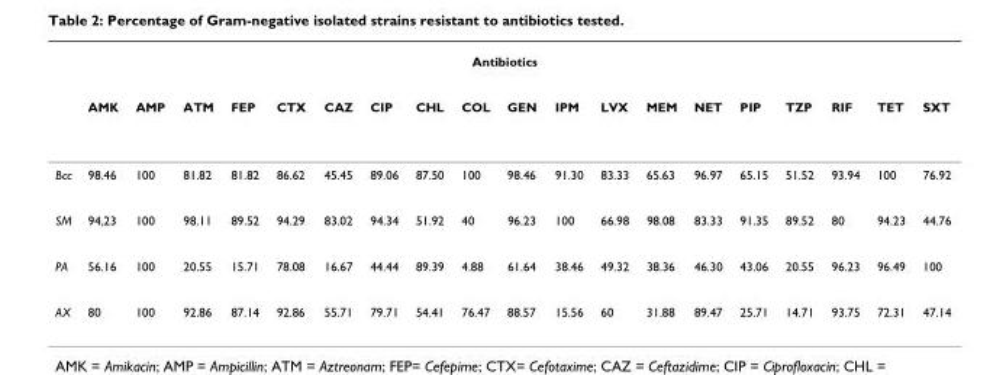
<table><thead><tr><td colspan="20">Antibiotics</td></tr><tr><td></td><td>AMK</td><td>AMP</td><td>ATM</td><td>FEP</td><td>CTX</td><td>CAZ</td><td>CIP</td><td>CHL</td><td>COL</td><td>GEN</td><td>IPM</td><td>LVX</td><td>MEM</td><td>NET</td><td>PIP</td><td>TZP</td><td>RIF</td><td>TET</td><td>SXT</td></tr></thead><tbody><tr><td>Bcc</td><td>98.46</td><td>100</td><td>81.82</td><td>81.82</td><td>86.62</td><td>45.45</td><td>89.06</td><td>87.50</td><td>100</td><td>98.46</td><td>91.30</td><td>83.33</td><td>65.63</td><td>96.97</td><td>65.15</td><td>51.52</td><td>93.94</td><td>100</td><td>76.92</td></tr><tr><td>SM</td><td>94,23</td><td>100</td><td>98.11</td><td>89.52</td><td>94.29</td><td>83.02</td><td>94.34</td><td>51.92</td><td>40</td><td>96.23</td><td>100</td><td>66.98</td><td>98.08</td><td>83.33</td><td>91.35</td><td>89.52</td><td>80</td><td>94.23</td><td>44.76</td></tr><tr><td>PA</td><td>56.16</td><td>100</td><td>20.55</td><td>15.71</td><td>78.08</td><td>16.67</td><td>44.44</td><td>89.39</td><td>4.88</td><td>61.64</td><td>38.46</td><td>49.32</td><td>38.36</td><td>46.30</td><td>43.06</td><td>20.55</td><td>96.23</td><td>96.49</td><td>100</td></tr><tr><td>AX</td><td>80</td><td>100</td><td>92.86</td><td>87.14</td><td>92.86</td><td>55.71</td><td>79.71</td><td>54.41</td><td>76.47</td><td>88.57</td><td>15.56</td><td>60</td><td>31.88</td><td>89.47</td><td>25.71</td><td>14.71</td><td>93.75</td><td>72.31</td><td>47.14</td></tr></tbody></table>